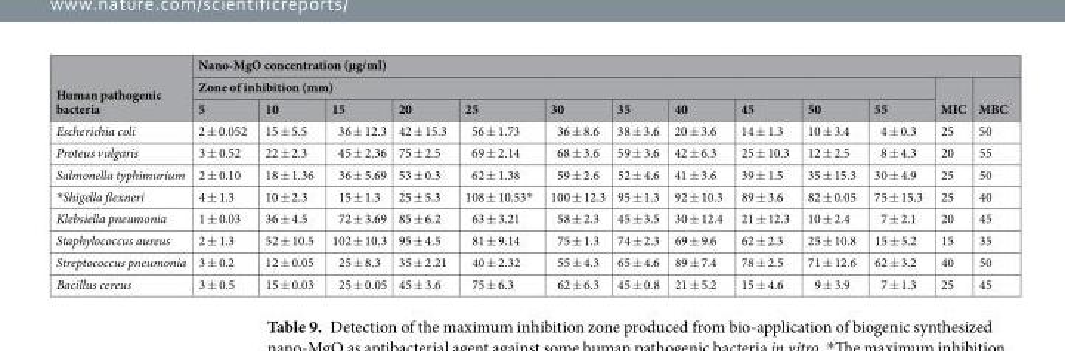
<table><thead><tr><td rowspan="3">Human pathogenic bacteria</td><td colspan="13">Nano-MgO concentration (µg/ml)</td></tr><tr><td colspan="11">Zone of inhibition (mm)</td><td rowspan="2">MIC</td><td rowspan="2">MBC</td></tr><tr><td>5</td><td>10</td><td>15</td><td>20</td><td>25</td><td>30</td><td>35</td><td>40</td><td>45</td><td>50</td><td>55</td></tr></thead><tbody><tr><td>Escherichia coli</td><td>2 ± 0.052</td><td>15 ± 5.5</td><td>36 ± 12.3</td><td>42 ± 15.3</td><td>56 ± 1.73</td><td>36 ± 8.6</td><td>38 ± 3.6</td><td>20 ± 3.6</td><td>14 ± 1.3</td><td>10 ± 3.4</td><td>4 ± 0.3</td><td>25</td><td>50</td></tr><tr><td>Proteus vulgaris</td><td>3 ± 0.52</td><td>22 ± 2.3</td><td>45 ± 2.36</td><td>75 ± 2.5</td><td>69 ± 2.14</td><td>68 ± 3.6</td><td>59 ± 3.6</td><td>42 ± 6.3</td><td>25 ± 10.3</td><td>12 ± 2.5</td><td>8 ± 4.3</td><td>20</td><td>55</td></tr><tr><td>Salmonella typhimurium</td><td>2 ± 0.10</td><td>18 ± 1.36</td><td>36 ± 5.69</td><td>53 ± 0.3</td><td>62 ± 1.38</td><td>59 ± 2.6</td><td>52 ± 4.6</td><td>41 ± 3.6</td><td>39 ± 1.5</td><td>35 ± 15.3</td><td>30 ± 4.9</td><td>25</td><td>50</td></tr><tr><td>*Shigella flexneri</td><td>4 ± 1.3</td><td>10 ± 2.3</td><td>15 ± 1.3</td><td>25 ± 5.3</td><td>108 ± 10.53*</td><td>100 ± 12.3</td><td>95 ± 1.3</td><td>92 ± 10.3</td><td>89 ± 3.6</td><td>82 ± 0.05</td><td>75 ± 15.3</td><td>25</td><td>40</td></tr><tr><td>Klebsiella pneumonia</td><td>1 ± 0.03</td><td>36 ± 4.5</td><td>72 ± 3.69</td><td>85 ± 6.2</td><td>63 ± 3.21</td><td>58 ± 2.3</td><td>45 ± 3.5</td><td>30 ± 12.4</td><td>21 ± 12.3</td><td>10 ± 2.4</td><td>7 ± 2.1</td><td>20</td><td>45</td></tr><tr><td>Staphylococcus aureus</td><td>2 ± 1.3</td><td>52 ± 10.5</td><td>102 ± 10.3</td><td>95 ± 4.5</td><td>81 ± 9.14</td><td>75 ± 1.3</td><td>74 ± 2.3</td><td>69 ± 9.6</td><td>62 ± 2.3</td><td>25 ± 10.8</td><td>15 ± 5.2</td><td>15</td><td>35</td></tr><tr><td>Streptococcus pneumonia</td><td>3 ± 0.2</td><td>12 ± 0.05</td><td>25 ± 8.3</td><td>35 ± 2.21</td><td>40 ± 2.32</td><td>55 ± 4.3</td><td>65 ± 4.6</td><td>89 ± 7.4</td><td>78 ± 2.5</td><td>71 ± 12.6</td><td>62 ± 3.2</td><td>40</td><td>50</td></tr><tr><td>Bacillus cereus</td><td>3 ± 0.5</td><td>15 ± 0.03</td><td>25 ± 0.05</td><td>45 ± 3.6</td><td>75 ± 6.3</td><td>62 ± 6.3</td><td>45 ± 0.8</td><td>21 ± 5.2</td><td>15 ± 4.6</td><td>9 ± 3.9</td><td>7 ± 1.3</td><td>25</td><td>45</td></tr></tbody></table>